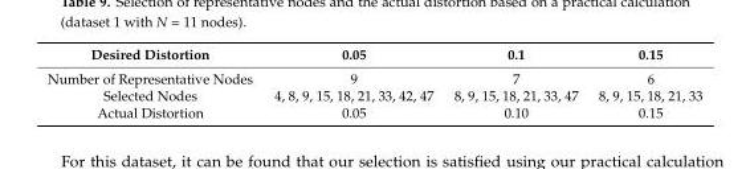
<table><thead><tr><td>Desired Distortion</td><td>0.05</td><td>0.1</td><td>0.15</td></tr></thead><tbody><tr><td>Number of Representative Nodes</td><td>9</td><td>7</td><td>6</td></tr><tr><td>Selected Nodes</td><td>4, 8, 9, 15, 18, 21, 33, 42, 47</td><td>8, 9, 15, 18, 21, 33, 47</td><td>8, 9, 15, 18, 21, 33</td></tr><tr><td>Actual Distortion</td><td>0.05</td><td>0.10</td><td>0.15</td></tr></tbody></table>